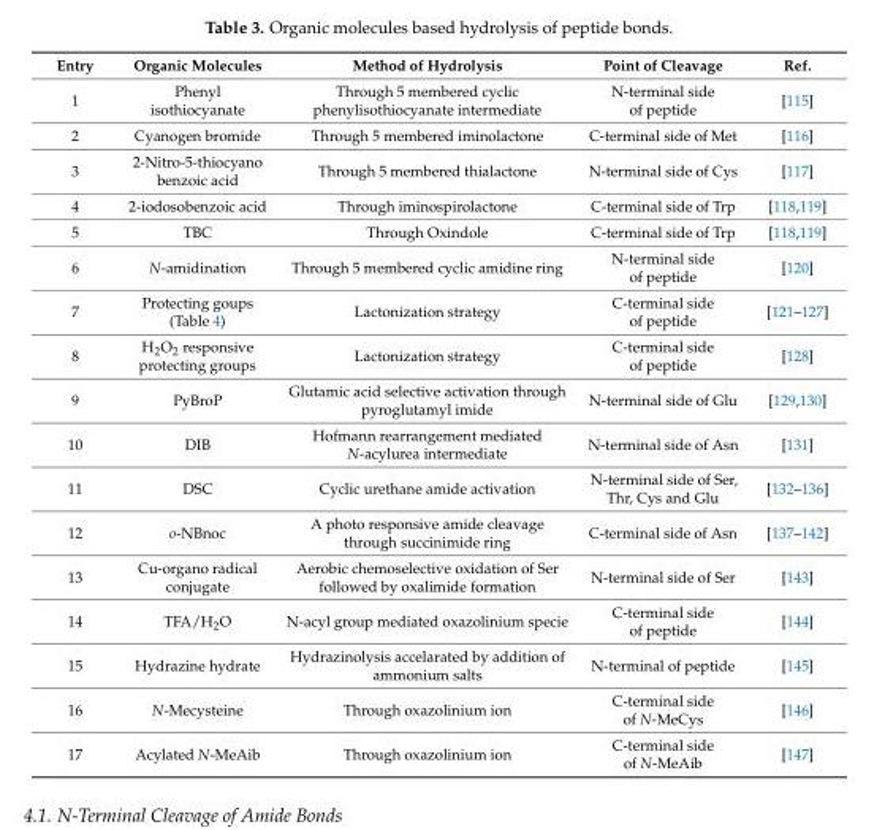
<table><thead><tr><td>Entry</td><td>Organic Molecules</td><td>Method of Hydrolysis</td><td>Point of Cleavage</td><td>Ref.</td></tr></thead><tbody><tr><td>1</td><td>Phenyl isothiocyanate</td><td>Through 5 membered cyclic phenylisothiocyanate intermediate</td><td>N-terminal side of peptide</td><td>[115]</td></tr><tr><td>2</td><td>Cyanogen bromide</td><td>Through 5 membered iminolactone</td><td>C-terminal side of Met</td><td>[116]</td></tr><tr><td>3</td><td>2-Nitro-5-thiocyano benzoic acid</td><td>Through 5 membered thialactone</td><td>N-terminal side of Cys</td><td>[117]</td></tr><tr><td>4</td><td>2-iodosobenzoic acid</td><td>Through iminospirolactone</td><td>C-terminal side of Trp</td><td>[118,119]</td></tr><tr><td>5</td><td>TBC</td><td>Through Oxindole</td><td>C-terminal side of Trp</td><td>[118,119]</td></tr><tr><td>6</td><td>N-amidination</td><td>Through 5 membered cyclic amidine ring</td><td>N-terminal side of peptide</td><td>[120]</td></tr><tr><td>7</td><td>Protecting goups (Table 4)</td><td>Lactonization strategy</td><td>C-terminal side of peptide</td><td>[121–127]</td></tr><tr><td>8</td><td>H<sub>2</sub>O<sub>2</sub> responsive protecting groups</td><td>Lactonization strategy</td><td>C-terminal side of peptide</td><td>[128]</td></tr><tr><td>9</td><td>PyBroP</td><td>Glutamic acid selective activation through pyroglutamyl imide</td><td>N-terminal side of Glu</td><td>[129,130]</td></tr><tr><td>10</td><td>DIB</td><td>Hofmann rearrangement mediated N-acylurea intermediate</td><td>N-terminal side of Asn</td><td>[131]</td></tr><tr><td>11</td><td>DSC</td><td>Cyclic urethane amide activation</td><td>N-terminal side of Ser, Thr, Cys and Glu</td><td>[132–136]</td></tr><tr><td>12</td><td>o-NBnoc</td><td>A photo responsive amide cleavage through succinimide ring</td><td>C-terminal side of Asn</td><td>[137–142]</td></tr><tr><td>13</td><td>Cu-organo radical conjugate</td><td>Aerobic chemoselective oxidation of Ser followed by oxalimide formation</td><td>N-terminal side of Ser</td><td>[143]</td></tr><tr><td>14</td><td>TFA/H<sub>2</sub>O</td><td>N-acyl group mediated oxazolinium specie</td><td>C-terminal side of peptide</td><td>[144]</td></tr><tr><td>15</td><td>Hydrazine hydrate</td><td>Hydrazinolysis accelarated by addition of ammonium salts</td><td>N-terminal of peptide</td><td>[145]</td></tr><tr><td>16</td><td>N-Mecysteine</td><td>Through oxazolinium ion</td><td>C-terminal side of N-MeCys</td><td>[146]</td></tr><tr><td>17</td><td>Acylated N-MeAib</td><td>Through oxazolinium ion</td><td>C-terminal side of N-MeAib</td><td>[147]</td></tr></tbody></table>